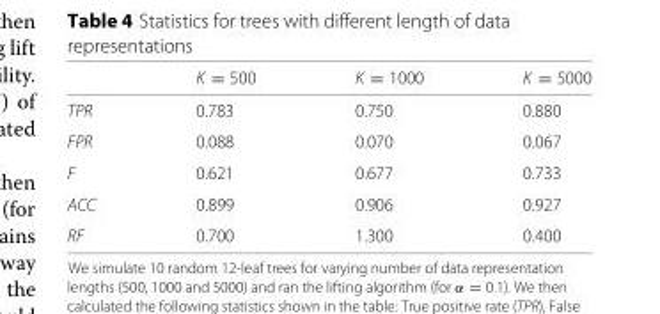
<table><thead><tr><td></td><td>K = 500</td><td>K = 1000</td><td>K = 5000</td></tr></thead><tbody><tr><td>TPR</td><td>0.783</td><td>0.750</td><td>0.880</td></tr><tr><td>FPR</td><td>0.088</td><td>0.070</td><td>0.067</td></tr><tr><td>F</td><td>0.621</td><td>0.677</td><td>0.733</td></tr><tr><td>ACC</td><td>0.899</td><td>0.906</td><td>0.927</td></tr><tr><td>RF</td><td>0.700</td><td>1.300</td><td>0.400</td></tr></tbody></table>